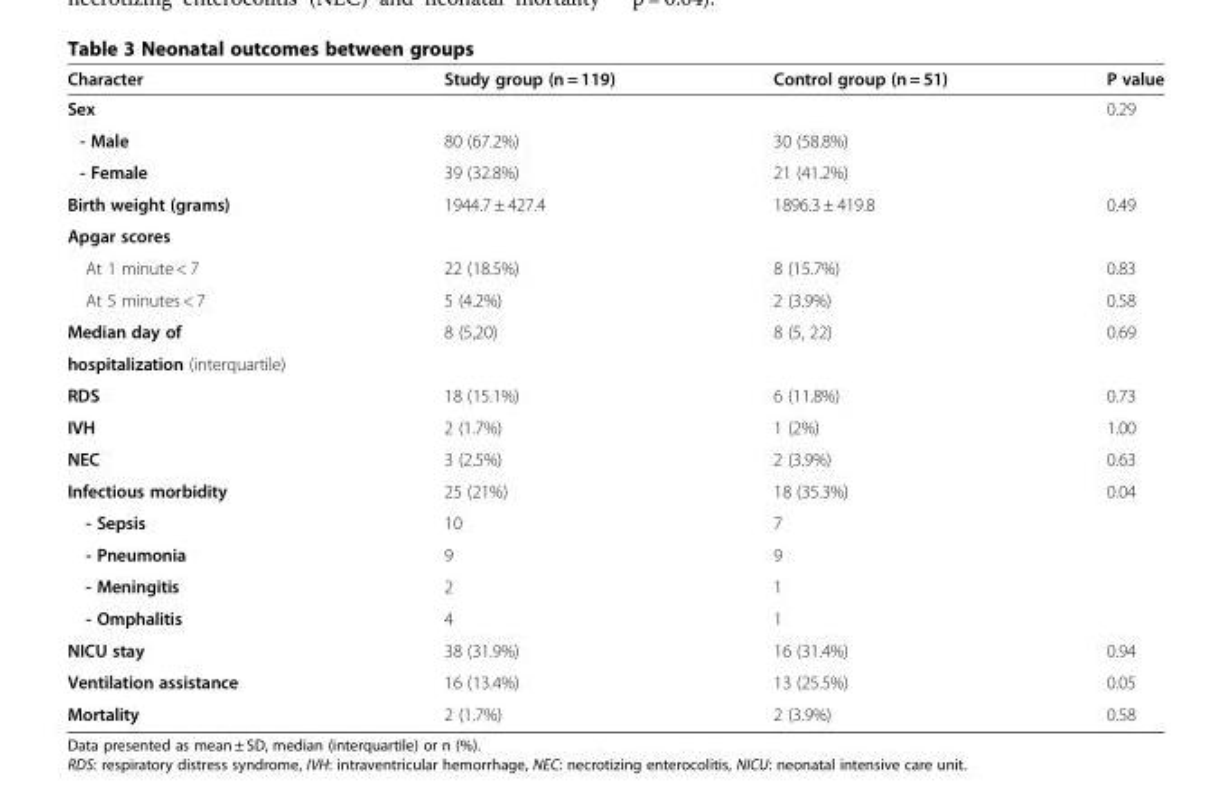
<table><thead><tr><td>Character</td><td>Study group (n = 119)</td><td>Control group (n = 51)</td><td>P value</td></tr></thead><tbody><tr><td>Sex</td><td></td><td></td><td>0.29</td></tr><tr><td>- Male</td><td>80 (67.2%)</td><td>30 (58.8%)</td><td></td></tr><tr><td>- Female</td><td>39 (32.8%)</td><td>21 (41.2%)</td><td></td></tr><tr><td>Birth weight (grams)</td><td>1944.7 ± 427.4</td><td>1896.3 ± 419.8</td><td>0.49</td></tr><tr><td colspan="4">Apgar scores</td></tr><tr><td>At 1 minute &lt; 7</td><td>22 (18.5%)</td><td>8 (15.7%)</td><td>0.83</td></tr><tr><td>At 5 minutes &lt; 7</td><td>5 (4.2%)</td><td>2 (3.9%)</td><td>0.58</td></tr><tr><td>Median day of</td><td>8 (5,20)</td><td>8 (5, 22)</td><td>0.69</td></tr><tr><td colspan="4">hospitalization (interquartile)</td></tr><tr><td>RDS</td><td>18 (15.1%)</td><td>6 (11.8%)</td><td>0.73</td></tr><tr><td>IVH</td><td>2 (1.7%)</td><td>1 (2%)</td><td>1.00</td></tr><tr><td>NEC</td><td>3 (2.5%)</td><td>2 (3.9%)</td><td>0.63</td></tr><tr><td>Infectious morbidity</td><td>25 (21%)</td><td>18 (35.3%)</td><td>0.04</td></tr><tr><td>- Sepsis</td><td>10</td><td>7</td><td></td></tr><tr><td>- Pneumonia</td><td>9</td><td>9</td><td></td></tr><tr><td>- Meningitis</td><td>2</td><td>1</td><td></td></tr><tr><td>- Omphalitis</td><td>4</td><td>1</td><td></td></tr><tr><td>NICU stay</td><td>38 (31.9%)</td><td>16 (31.4%)</td><td>0.94</td></tr><tr><td>Ventilation assistance</td><td>16 (13.4%)</td><td>13 (25.5%)</td><td>0.05</td></tr><tr><td>Mortality</td><td>2 (1.7%)</td><td>2 (3.9%)</td><td>0.58</td></tr></tbody></table>